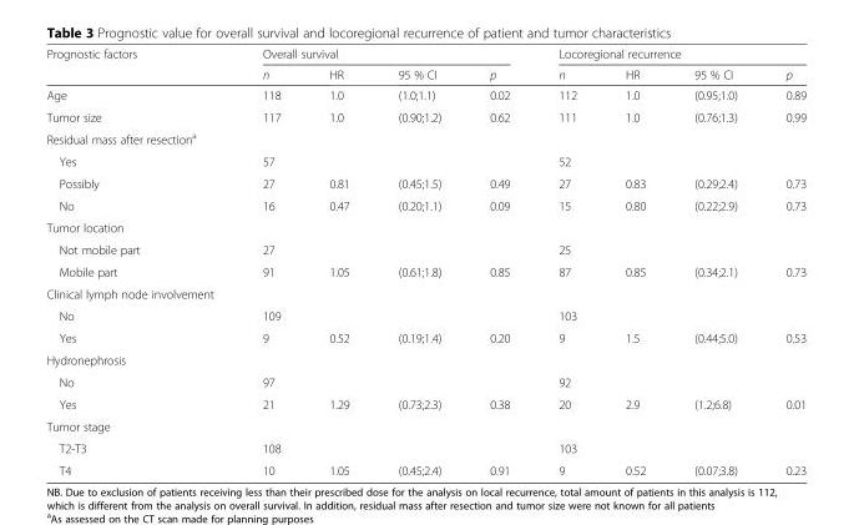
<table><thead><tr><td rowspan="2">Prognostic factors</td><td colspan="4">Overall survival</td><td colspan="4">Locoregional recurrence</td></tr><tr><td>n</td><td>HR</td><td>95 % CI</td><td>p</td><td>n</td><td>HR</td><td>95 % CI</td><td>p</td></tr></thead><tbody><tr><td>Age</td><td>118</td><td>1.0</td><td>(1.0;1.1)</td><td>0.02</td><td>112</td><td>1.0</td><td>(0.95;1.0)</td><td>0.89</td></tr><tr><td>Tumor size</td><td>117</td><td>1.0</td><td>(0.90;1.2)</td><td>0.62</td><td>111</td><td>1.0</td><td>(0.76;1.3)</td><td>0.99</td></tr><tr><td colspan="9">Residual mass after resection<sup>a</sup></td></tr><tr><td>Yes</td><td>57</td><td></td><td></td><td></td><td>52</td><td></td><td></td><td></td></tr><tr><td>Possibly</td><td>27</td><td>0.81</td><td>(0.45;1.5)</td><td>0.49</td><td>27</td><td>0.83</td><td>(0.29;2.4)</td><td>0.73</td></tr><tr><td>No</td><td>16</td><td>0.47</td><td>(0.20;1.1)</td><td>0.09</td><td>15</td><td>0.80</td><td>(0.22;2.9)</td><td>0.73</td></tr><tr><td colspan="9">Tumor location</td></tr><tr><td>Not mobile part</td><td>27</td><td></td><td></td><td></td><td>25</td><td></td><td></td><td></td></tr><tr><td>Mobile part</td><td>91</td><td>1.05</td><td>(0.61;1.8)</td><td>0.85</td><td>87</td><td>0.85</td><td>(0.34;2.1)</td><td>0.73</td></tr><tr><td colspan="9">Clinical lymph node involvement</td></tr><tr><td>No</td><td>109</td><td></td><td></td><td></td><td>103</td><td></td><td></td><td></td></tr><tr><td>Yes</td><td>9</td><td>0.52</td><td>(0.19;1.4)</td><td>0.20</td><td>9</td><td>1.5</td><td>(0.44;5.0)</td><td>0.53</td></tr><tr><td colspan="9">Hydronephrosis</td></tr><tr><td>No</td><td>97</td><td></td><td></td><td></td><td>92</td><td></td><td></td><td></td></tr><tr><td>Yes</td><td>21</td><td>1.29</td><td>(0.73;2.3)</td><td>0.38</td><td>20</td><td>2.9</td><td>(1.2;6.8)</td><td>0.01</td></tr><tr><td colspan="9">Tumor stage</td></tr><tr><td>T2-T3</td><td>108</td><td></td><td></td><td></td><td>103</td><td></td><td></td><td></td></tr><tr><td>T4</td><td>10</td><td>1.05</td><td>(0.45;2.4)</td><td>0.91</td><td>9</td><td>0.52</td><td>(0.07;3.8)</td><td>0.23</td></tr></tbody></table>